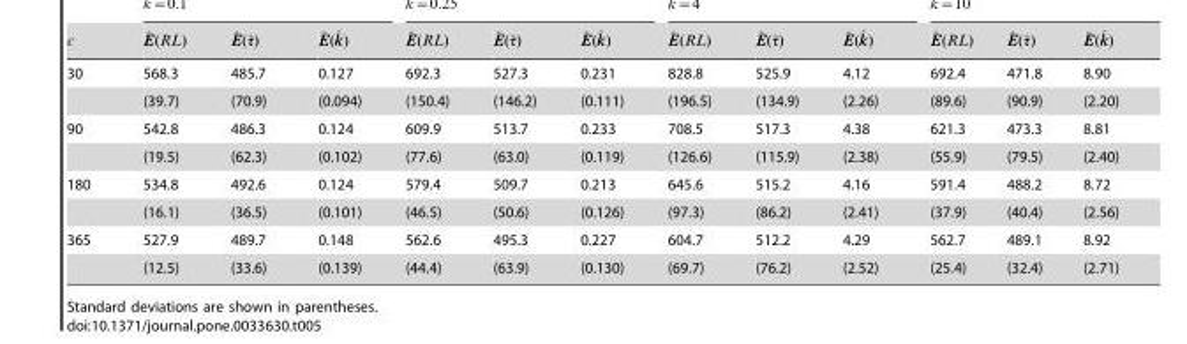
<table><tbody><tr><td rowspan="2">30</td><td>568.3</td><td>485.7</td><td>0.127</td><td>692.3</td><td>527.3</td><td>0.231</td><td>828.8</td><td>525.9</td><td>4.12</td><td>692.4</td><td>471.8</td><td>8.90</td></tr><tr><td>(39.7)</td><td>(70.9)</td><td>(0.094)</td><td>(150.4)</td><td>(146.2)</td><td>(0.111)</td><td>(196.5)</td><td>(134.9)</td><td>(2.26)</td><td>(89.6)</td><td>(90.9)</td><td>(2.20)</td></tr><tr><td rowspan="2">90</td><td>542.8</td><td>486.3</td><td>0.124</td><td>609.9</td><td>513.7</td><td>0.233</td><td>708.5</td><td>517.3</td><td>4.38</td><td>621.3</td><td>473.3</td><td>8.81</td></tr><tr><td>(19.5)</td><td>(62.3)</td><td>(0.102)</td><td>(77.6)</td><td>(63.0)</td><td>(0.119)</td><td>(126.6)</td><td>(115.9)</td><td>(2.38)</td><td>(55.9)</td><td>(79.5)</td><td>(2.40)</td></tr><tr><td rowspan="2">180</td><td>534.8</td><td>492.6</td><td>0.124</td><td>579.4</td><td>509.7</td><td>0.213</td><td>645.6</td><td>515.2</td><td>4.16</td><td>591.4</td><td>488.2</td><td>8.72</td></tr><tr><td>(16.1)</td><td>(36.5)</td><td>(0.101)</td><td>(46.5)</td><td>(50.6)</td><td>(0.126)</td><td>(97.3)</td><td>(86.2)</td><td>(2.41)</td><td>(37.9)</td><td>(40.4)</td><td>(2.56)</td></tr><tr><td rowspan="2">365</td><td>527.9</td><td>489.7</td><td>0.148</td><td>562.6</td><td>495.3</td><td>0.227</td><td>604.7</td><td>512.2</td><td>4.29</td><td>562.7</td><td>489.1</td><td>8.92</td></tr><tr><td>(12.5)</td><td>(33.6)</td><td>(0.139)</td><td>(44.4)</td><td>(63.9)</td><td>(0.130)</td><td>(69.7)</td><td>(76.2)</td><td>(2.52)</td><td>(25.4)</td><td>(32.4)</td><td>(2.71)</td></tr></tbody></table>